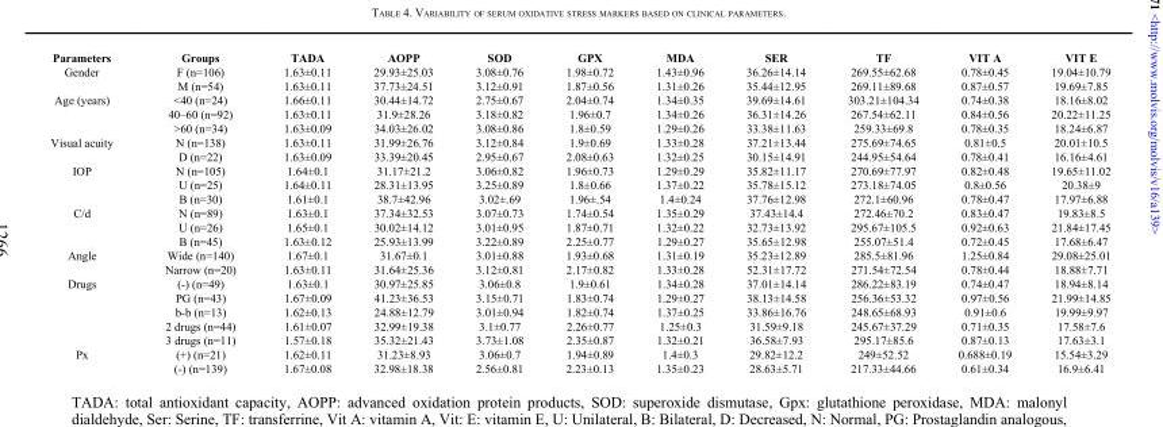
<table><thead><tr><td>Parameters</td><td>Groups</td><td>TADA</td><td>AOPP</td><td>SOD</td><td>GPX</td><td>MDA</td><td>SER</td><td>TF</td><td>VIT A</td><td>VIT E</td></tr></thead><tbody><tr><td rowspan="2">Gender</td><td>F (n=106)</td><td>1.63±0.11</td><td>29.93±25.03</td><td>3.08±0.76</td><td>1.98±0.72</td><td>1.43±0.96</td><td>36.26±14.14</td><td>269.55±62.68</td><td>0.78±0.45</td><td>19.04±10.79</td></tr><tr><td>M (n=54)</td><td>1.63±0.11</td><td>37.73±24.51</td><td>3.12±0.91</td><td>1.87±0.56</td><td>1.31±0.26</td><td>35.44±12.95</td><td>269.11±89.68</td><td>0.87±0.57</td><td>19.69±7.85</td></tr><tr><td rowspan="3">Age (years)</td><td>&lt;40 (n=24)</td><td>1.66±0.11</td><td>30.44±14.72</td><td>2.75±0.67</td><td>2.04±0.74</td><td>1.34±0.35</td><td>39.69±14.61</td><td>303.21±104.34</td><td>0.74±0.38</td><td>18.16±8.02</td></tr><tr><td>40–60 (n=92)</td><td>1.63±0.11</td><td>31.9±28.26</td><td>3.18±0.82</td><td>1.96±0.7</td><td>1.34±0.26</td><td>36.31±14.26</td><td>267.54±62.11</td><td>0.84±0.56</td><td>20.22±11.25</td></tr><tr><td>&gt;60 (n=34)</td><td>1.63±0.09</td><td>34.03±26.02</td><td>3.08±0.86</td><td>1.8±0.59</td><td>1.29±0.26</td><td>33.38±11.63</td><td>259.33±69.8</td><td>0.78±0.35</td><td>18.24±6.87</td></tr><tr><td rowspan="2">Visual acuity</td><td>N (n=138)</td><td>1.63±0.11</td><td>31.99±26.76</td><td>3.12±0.84</td><td>1.9±0.69</td><td>1.33±0.28</td><td>37.21±13.44</td><td>275.69±74.65</td><td>0.81±0.5</td><td>20.01±10.5</td></tr><tr><td>D (n=22)</td><td>1.63±0.09</td><td>33.39±20.45</td><td>2.95±0.67</td><td>2.08±0.63</td><td>1.32±0.25</td><td>30.15±14.91</td><td>244.95±54.64</td><td>0.78±0.41</td><td>16.16±4.61</td></tr><tr><td rowspan="3">IOP</td><td>N (n=105)</td><td>1.64±0.1</td><td>31.17±21.2</td><td>3.06±0.82</td><td>1.96±0.73</td><td>1.29±0.29</td><td>35.82±11.17</td><td>270.69±77.97</td><td>0.82±0.48</td><td>19.65±11.02</td></tr><tr><td>U (n=25)</td><td>1.64±0.11</td><td>28.31±13.95</td><td>3.25±0.89</td><td>1.8±0.66</td><td>1.37±0.22</td><td>35.78±15.12</td><td>273.18±74.05</td><td>0.8±0.56</td><td>20.38±9</td></tr><tr><td>B (n=30)</td><td>1.61±0.1</td><td>38.7±42.96</td><td>3.02±.69</td><td>1.96±.54</td><td>1.4±0.24</td><td>37.76±12.98</td><td>272.1±60.96</td><td>0.78±0.47</td><td>17.97±6.88</td></tr><tr><td rowspan="3">C/d</td><td>N (n=89)</td><td>1.63±0.1</td><td>37.34±32.53</td><td>3.07±0.73</td><td>1.74±0.54</td><td>1.35±0.29</td><td>37.43±14.4</td><td>272.46±70.2</td><td>0.83±0.47</td><td>19.83±8.5</td></tr><tr><td>U (n=26)</td><td>1.65±0.1</td><td>30.02±14.12</td><td>3.01±0.95</td><td>1.87±0.71</td><td>1.32±0.22</td><td>32.73±13.92</td><td>295.67±105.5</td><td>0.92±0.63</td><td>21.84±17.45</td></tr><tr><td>B (n=45)</td><td>1.63±0.12</td><td>25.93±13.99</td><td>3.22±0.89</td><td>2.25±0.77</td><td>1.29±0.27</td><td>35.65±12.98</td><td>255.07±51.4</td><td>0.72±0.45</td><td>17.68±6.47</td></tr><tr><td rowspan="2">Angle</td><td>Wide (n=140)</td><td>1.67±0.1</td><td>31.67±0.1</td><td>3.01±0.88</td><td>1.93±0.68</td><td>1.31±0.19</td><td>35.23±12.89</td><td>285.5±81.96</td><td>1.25±0.84</td><td>29.08±25.01</td></tr><tr><td>Narrow (n=20)</td><td>1.63±0.11</td><td>31.64±25.36</td><td>3.12±0.81</td><td>2.17±0.82</td><td>1.33±0.28</td><td>52.31±17.72</td><td>271.54±72.54</td><td>0.78±0.44</td><td>18.88±7.71</td></tr><tr><td rowspan="5">Drugs</td><td>(-) (n=49)</td><td>1.63±0.1</td><td>30.97±25.85</td><td>3.06±0.8</td><td>1.9±0.61</td><td>1.34±0.28</td><td>37.01±14.14</td><td>286.22±83.19</td><td>0.74±0.47</td><td>18.94±8.14</td></tr><tr><td>PG (n=43)</td><td>1.67±0.09</td><td>41.23±36.53</td><td>3.15±0.71</td><td>1.83±0.74</td><td>1.29±0.27</td><td>38.13±14.58</td><td>256.36±53.32</td><td>0.97±0.56</td><td>21.99±14.85</td></tr><tr><td>b-b (n=13)</td><td>1.62±0.13</td><td>24.88±12.79</td><td>3.01±0.94</td><td>1.82±0.74</td><td>1.37±0.25</td><td>33.86±16.76</td><td>248.65±68.93</td><td>0.91±0.6</td><td>19.99±9.97</td></tr><tr><td>2 drugs (n=44)</td><td>1.61±0.07</td><td>32.99±19.38</td><td>3.1±0.77</td><td>2.26±0.77</td><td>1.25±0.3</td><td>31.59±9.18</td><td>245.67±37.29</td><td>0.71±0.35</td><td>17.58±7.6</td></tr><tr><td>3 drugs (n=11)</td><td>1.57±0.18</td><td>35.32±21.43</td><td>3.73±1.08</td><td>2.35±0.87</td><td>1.32±0.21</td><td>36.58±7.93</td><td>295.17±85.6</td><td>0.87±0.13</td><td>17.63±3.1</td></tr><tr><td rowspan="2">Px</td><td>(+) (n=21)</td><td>1.62±0.11</td><td>31.23±8.93</td><td>3.06±0.7</td><td>1.94±0.89</td><td>1.4±0.3</td><td>29.82±12.2</td><td>249±52.52</td><td>0.688±0.19</td><td>15.54±3.29</td></tr><tr><td>(-) (n=139)</td><td>1.67±0.08</td><td>32.98±18.38</td><td>2.56±0.81</td><td>2.23±0.13</td><td>1.35±0.23</td><td>28.63±5.71</td><td>217.33±44.66</td><td>0.61±0.34</td><td>16.9±6.41</td></tr></tbody></table>